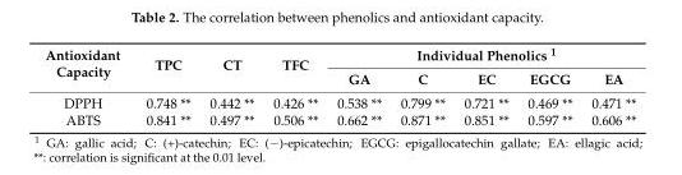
<table><thead><tr><td rowspan="2">Antioxidant Capacity</td><td rowspan="2">TPC</td><td rowspan="2">CT</td><td rowspan="2">TFC</td><td colspan="5">Individual Phenolics <sup>1</sup></td></tr><tr><td>GA</td><td>C</td><td>EC</td><td>EGCG</td><td>EA</td></tr></thead><tbody><tr><td>DPPH</td><td>0.748 **</td><td>0.442 **</td><td>0.426 **</td><td>0.538 **</td><td>0.799 **</td><td>0.721 **</td><td>0.469 **</td><td>0.471 **</td></tr><tr><td>ABTS</td><td>0.841 **</td><td>0.497 **</td><td>0.506 **</td><td>0.662 **</td><td>0.871 **</td><td>0.851 **</td><td>0.597 **</td><td>0.606 **</td></tr></tbody></table>